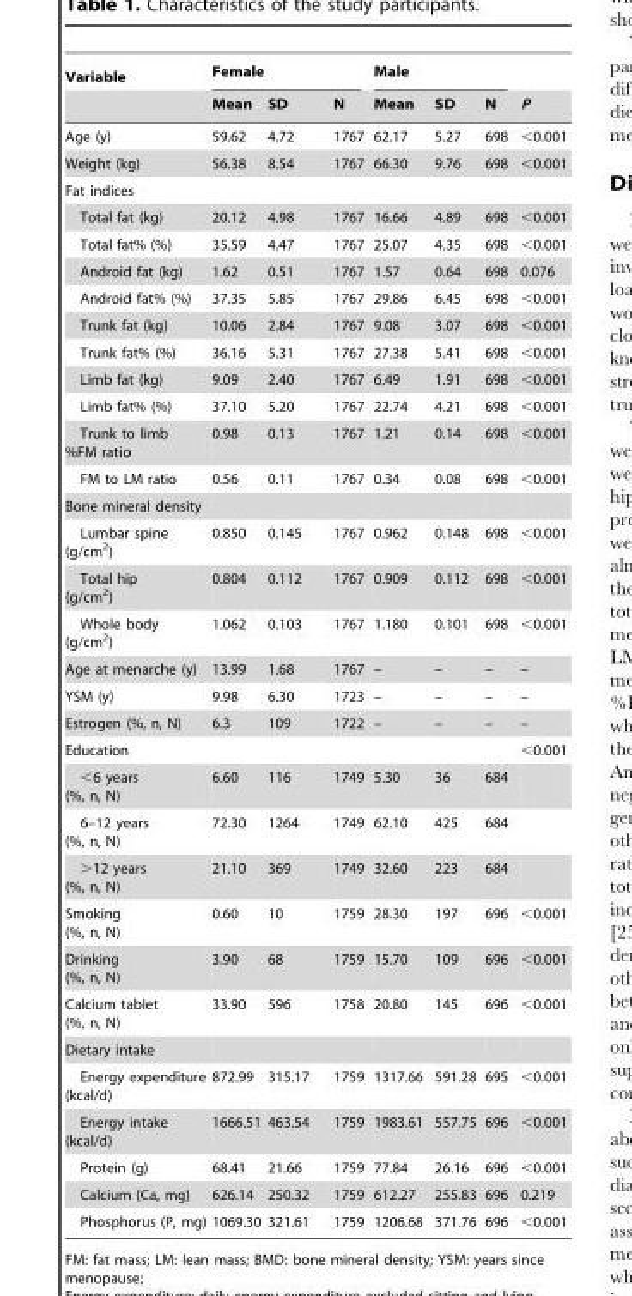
<table><thead><tr><td rowspan="2">Variable</td><td colspan="3">Female</td><td colspan="3">Male</td><td rowspan="2">P</td></tr><tr><td>Mean</td><td>SD</td><td>N</td><td>Mean</td><td>SD</td><td>N</td></tr></thead><tbody><tr><td>Age (y)</td><td>59.62</td><td>4.72</td><td>1767</td><td>62.17</td><td>5.27</td><td>698</td><td>&lt;0.001</td></tr><tr><td>Weight (kg)</td><td>56.38</td><td>8.54</td><td>1767</td><td>66.30</td><td>9.76</td><td>698</td><td>&lt;0.001</td></tr><tr><td colspan="8">Fat indices</td></tr><tr><td>Total fat (kg)</td><td>20.12</td><td>4.98</td><td>1767</td><td>16.66</td><td>4.89</td><td>698</td><td>&lt;0.001</td></tr><tr><td>Total fat% (%)</td><td>35.59</td><td>4.47</td><td>1767</td><td>25.07</td><td>4.35</td><td>698</td><td>&lt;0.001</td></tr><tr><td>Android fat (kg)</td><td>1.62</td><td>0.51</td><td>1767</td><td>1.57</td><td>0.64</td><td>698</td><td>0.076</td></tr><tr><td>Android fat% (%)</td><td>37.35</td><td>5.85</td><td>1767</td><td>29.86</td><td>6.45</td><td>698</td><td>&lt;0.001</td></tr><tr><td>Trunk fat (kg)</td><td>10.06</td><td>2.84</td><td>1767</td><td>9.08</td><td>3.07</td><td>698</td><td>&lt;0.001</td></tr><tr><td>Trunk fat% (%)</td><td>36.16</td><td>5.31</td><td>1767</td><td>27.38</td><td>5.41</td><td>698</td><td>&lt;0.001</td></tr><tr><td>Limb fat (kg)</td><td>9.09</td><td>2.40</td><td>1767</td><td>6.49</td><td>1.91</td><td>698</td><td>&lt;0.001</td></tr><tr><td>Limb fat% (%)</td><td>37.10</td><td>5.20</td><td>1767</td><td>22.74</td><td>4.21</td><td>698</td><td>&lt;0.001</td></tr><tr><td>Trunk to limb %FM ratio</td><td>0.98</td><td>0.13</td><td>1767</td><td>1.21</td><td>0.14</td><td>698</td><td>&lt;0.001</td></tr><tr><td>FM to LM ratio</td><td>0.56</td><td>0.11</td><td>1767</td><td>0.34</td><td>0.08</td><td>698</td><td>&lt;0.001</td></tr><tr><td colspan="8">Bone mineral density</td></tr><tr><td>Lumbar spine (g/cm<sup>2</sup>)</td><td>0.850</td><td>0.145</td><td>1767</td><td>0.962</td><td>0.148</td><td>698</td><td>&lt;0.001</td></tr><tr><td>Total hip (g/cm<sup>2</sup>)</td><td>0.804</td><td>0.112</td><td>1767</td><td>0.909</td><td>0.112</td><td>698</td><td>&lt;0.001</td></tr><tr><td>Whole body (g/cm<sup>2</sup>)</td><td>1.062</td><td>0.103</td><td>1767</td><td>1.180</td><td>0.101</td><td>698</td><td>&lt;0.001</td></tr><tr><td>Age at menarche (y)</td><td>13.99</td><td>1.68</td><td>1767</td><td>–</td><td>–</td><td>–</td><td>–</td></tr><tr><td>YSM (y)</td><td>9.98</td><td>6.30</td><td>1723</td><td>–</td><td>–</td><td>–</td><td>–</td></tr><tr><td>Estrogen (%, n, N)</td><td>6.3</td><td>109</td><td>1722</td><td>–</td><td>–</td><td>–</td><td>–</td></tr><tr><td>Education</td><td></td><td></td><td></td><td></td><td></td><td></td><td>&lt;0.001</td></tr><tr><td>&lt;6 years (%, n, N)</td><td>6.60</td><td>116</td><td>1749</td><td>5.30</td><td>36</td><td>684</td><td></td></tr><tr><td>6–12 years (%, n, N)</td><td>72.30</td><td>1264</td><td>1749</td><td>62.10</td><td>425</td><td>684</td><td></td></tr><tr><td>&gt;12 years (%, n, N)</td><td>21.10</td><td>369</td><td>1749</td><td>32.60</td><td>223</td><td>684</td><td></td></tr><tr><td>Smoking (%, n, N)</td><td>0.60</td><td>10</td><td>1759</td><td>28.30</td><td>197</td><td>696</td><td>&lt;0.001</td></tr><tr><td>Drinking (%, n, N)</td><td>3.90</td><td>68</td><td>1759</td><td>15.70</td><td>109</td><td>696</td><td>&lt;0.001</td></tr><tr><td>Calcium tablet (%, n, N)</td><td>33.90</td><td>596</td><td>1758</td><td>20.80</td><td>145</td><td>696</td><td>&lt;0.001</td></tr><tr><td colspan="8">Dietary intake</td></tr><tr><td>Energy expenditure (kcal/d)</td><td>872.99</td><td>315.17</td><td>1759</td><td>1317.66</td><td>591.28</td><td>695</td><td>&lt;0.001</td></tr><tr><td>Energy intake (kcal/d)</td><td>1666.51</td><td>463.54</td><td>1759</td><td>1983.61</td><td>557.75</td><td>696</td><td>&lt;0.001</td></tr><tr><td>Protein (g)</td><td>68.41</td><td>21.66</td><td>1759</td><td>77.84</td><td>26.16</td><td>696</td><td>&lt;0.001</td></tr><tr><td>Calcium (Ca, mg)</td><td>626.14</td><td>250.32</td><td>1759</td><td>612.27</td><td>255.83</td><td>696</td><td>0.219</td></tr><tr><td>Phosphorus (P, mg)</td><td>1069.30</td><td>321.61</td><td>1759</td><td>1206.68</td><td>371.76</td><td>696</td><td>&lt;0.001</td></tr></tbody></table>